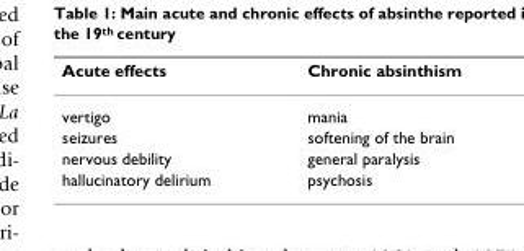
<table><thead><tr><td>Acute effects</td><td>Chronic absinthism</td></tr></thead><tbody><tr><td>vertigo</td><td>mania</td></tr><tr><td>seizures</td><td>softening of the brain</td></tr><tr><td>nervous debility</td><td>general paralysis</td></tr><tr><td>hallucinatory delirium</td><td>psychosis</td></tr></tbody></table>